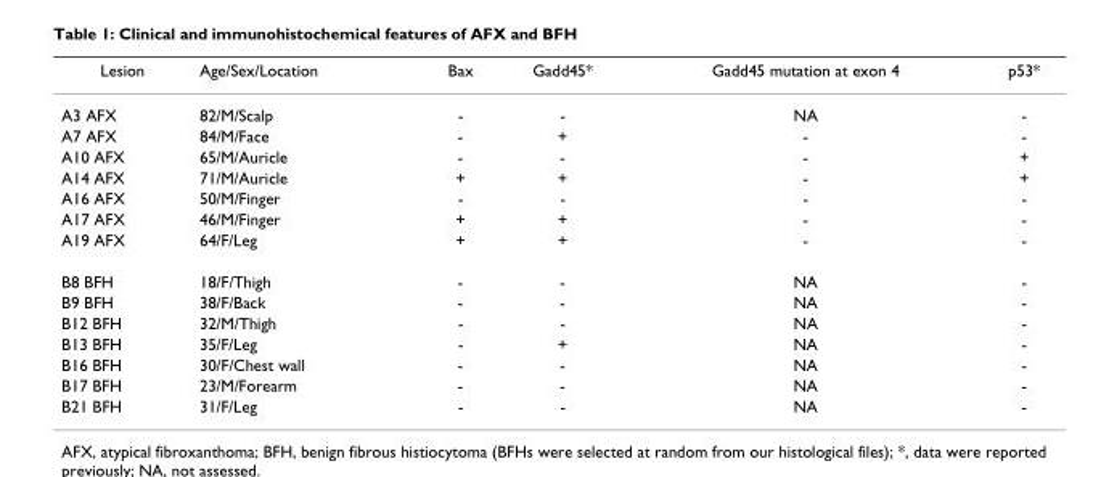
<table><thead><tr><td>Lesion</td><td>Age/Sex/Location</td><td>Bax</td><td>Gadd45*</td><td>Gadd45 mutation at exon 4</td><td>p53*</td></tr></thead><tbody><tr><td>A3 AFX</td><td>82/M/Scalp</td><td>-</td><td>-</td><td>NA</td><td>-</td></tr><tr><td>A7 AFX</td><td>84/M/Face</td><td>-</td><td>+</td><td>-</td><td>-</td></tr><tr><td>A10 AFX</td><td>65/M/Auricle</td><td>-</td><td>-</td><td>-</td><td>+</td></tr><tr><td>A14 AFX</td><td>71/M/Auricle</td><td>+</td><td>+</td><td>-</td><td>+</td></tr><tr><td>A16 AFX</td><td>50/M/Finger</td><td>-</td><td>-</td><td>-</td><td>-</td></tr><tr><td>A17 AFX</td><td>46/M/Finger</td><td>+</td><td>+</td><td>-</td><td>-</td></tr><tr><td>A19 AFX</td><td>64/F/Leg</td><td>+</td><td>+</td><td>-</td><td>-</td></tr><tr><td>B8 BFH</td><td>18/F/Thigh</td><td>-</td><td>-</td><td>NA</td><td>-</td></tr><tr><td>B9 BFH</td><td>38/F/Back</td><td>-</td><td>-</td><td>NA</td><td>-</td></tr><tr><td>B12 BFH</td><td>32/M/Thigh</td><td>-</td><td>-</td><td>NA</td><td>-</td></tr><tr><td>B13 BFH</td><td>35/F/Leg</td><td>-</td><td>+</td><td>NA</td><td>-</td></tr><tr><td>B16 BFH</td><td>30/F/Chest wall</td><td>-</td><td>-</td><td>NA</td><td>-</td></tr><tr><td>B17 BFH</td><td>23/M/Forearm</td><td>-</td><td>-</td><td>NA</td><td>-</td></tr><tr><td>B21 BFH</td><td>31/F/Leg</td><td>-</td><td>-</td><td>NA</td><td>-</td></tr></tbody></table>